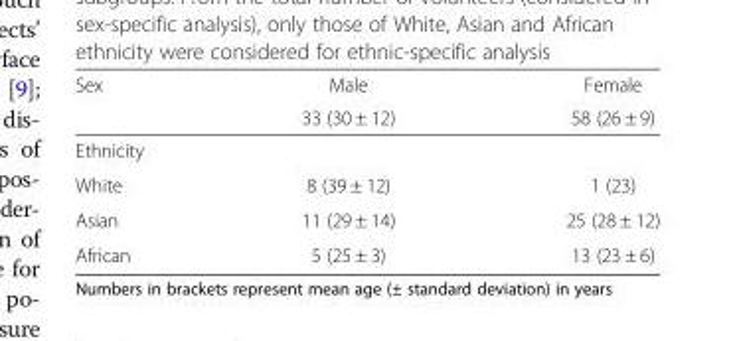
<table><thead><tr><td rowspan="2">Sex</td><td rowspan="2">Male 33 (30 ± 12)</td><td rowspan="2">Female 58 (26 ± 9)</td></tr><tr></tr></thead><tbody><tr><td colspan="3">Ethnicity</td></tr><tr><td>White</td><td>8 (39 ± 12)</td><td>1 (23)</td></tr><tr><td>Asian</td><td>11 (29 ± 14)</td><td>25 (28 ± 12)</td></tr><tr><td>African</td><td>5 (25 ± 3)</td><td>13 (23 ± 6)</td></tr></tbody></table>